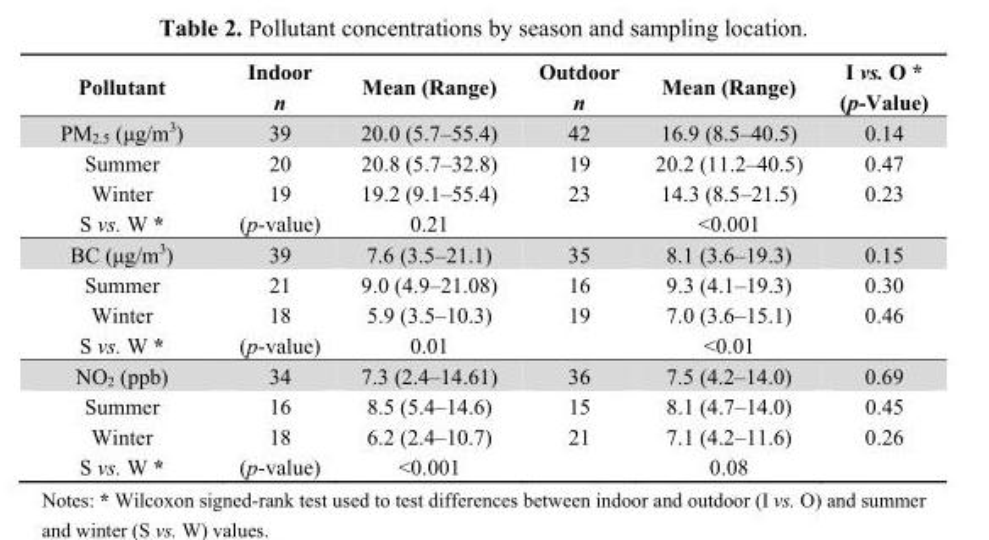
<table><thead><tr><td rowspan="2">Pollutant</td><td rowspan="2">Indoor n</td><td rowspan="2">Mean (Range)</td><td rowspan="2">Outdoor n</td><td rowspan="2">Mean (Range)</td><td rowspan="2">I vs. O * (p-Value)</td></tr><tr></tr></thead><tbody><tr><td>PM<sub>2.5</sub> (μg/m<sup>3</sup>)</td><td>39</td><td>20.0 (5.7–55.4)</td><td>42</td><td>16.9 (8.5–40.5)</td><td>0.14</td></tr><tr><td>Summer</td><td>20</td><td>20.8 (5.7–32.8)</td><td>19</td><td>20.2 (11.2–40.5)</td><td>0.47</td></tr><tr><td>Winter</td><td>19</td><td>19.2 (9.1–55.4)</td><td>23</td><td>14.3 (8.5–21.5)</td><td>0.23</td></tr><tr><td>S vs. W *</td><td>(p-value)</td><td>0.21</td><td></td><td>&lt;0.001</td><td></td></tr><tr><td>BC (μg/m<sup>3</sup>)</td><td>39</td><td>7.6 (3.5–21.1)</td><td>35</td><td>8.1 (3.6–19.3)</td><td>0.15</td></tr><tr><td>Summer</td><td>21</td><td>9.0 (4.9–21.08)</td><td>16</td><td>9.3 (4.1–19.3)</td><td>0.30</td></tr><tr><td>Winter</td><td>18</td><td>5.9 (3.5–10.3)</td><td>19</td><td>7.0 (3.6–15.1)</td><td>0.46</td></tr><tr><td>S vs. W *</td><td>(p-value)</td><td>0.01</td><td></td><td>&lt;0.01</td><td></td></tr><tr><td>NO<sub>2</sub> (ppb)</td><td>34</td><td>7.3 (2.4–14.61)</td><td>36</td><td>7.5 (4.2–14.0)</td><td>0.69</td></tr><tr><td>Summer</td><td>16</td><td>8.5 (5.4–14.6)</td><td>15</td><td>8.1 (4.7–14.0)</td><td>0.45</td></tr><tr><td>Winter</td><td>18</td><td>6.2 (2.4–10.7)</td><td>21</td><td>7.1 (4.2–11.6)</td><td>0.26</td></tr><tr><td>S vs. W *</td><td>(p-value)</td><td>&lt;0.001</td><td></td><td>0.08</td><td></td></tr></tbody></table>